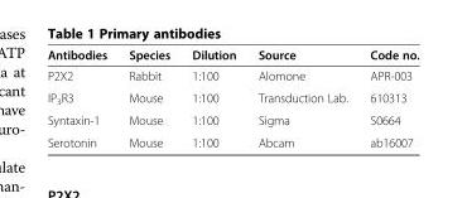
<table><thead><tr><td>Antibodies</td><td>Species</td><td>Dilution</td><td>Source</td><td>Code no.</td></tr></thead><tbody><tr><td>P2X2</td><td>Rabbit</td><td>1:100</td><td>Alomone</td><td>APR-003</td></tr><tr><td>IP<sub>3</sub>R3</td><td>Mouse</td><td>1:100</td><td>Transduction Lab.</td><td>610313</td></tr><tr><td>Syntaxin-1</td><td>Mouse</td><td>1:100</td><td>Sigma</td><td>S0664</td></tr><tr><td>Serotonin</td><td>Mouse</td><td>1:100</td><td>Abcam</td><td>ab16007</td></tr></tbody></table>